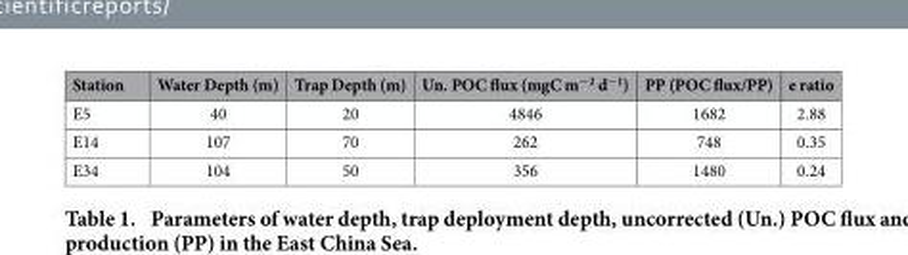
<table><thead><tr><td>Station</td><td>Water Depth (m)</td><td>Trap Depth (m)</td><td>Un. POC flux (mgC m<sup>−2</sup> d<sup>−1</sup>)</td><td>PP (POC flux/PP)</td><td>e ratio</td></tr></thead><tbody><tr><td>E5</td><td>40</td><td>20</td><td>4846</td><td>1682</td><td>2.88</td></tr><tr><td>E14</td><td>107</td><td>70</td><td>262</td><td>748</td><td>0.35</td></tr><tr><td>E34</td><td>104</td><td>50</td><td>356</td><td>1480</td><td>0.24</td></tr></tbody></table>